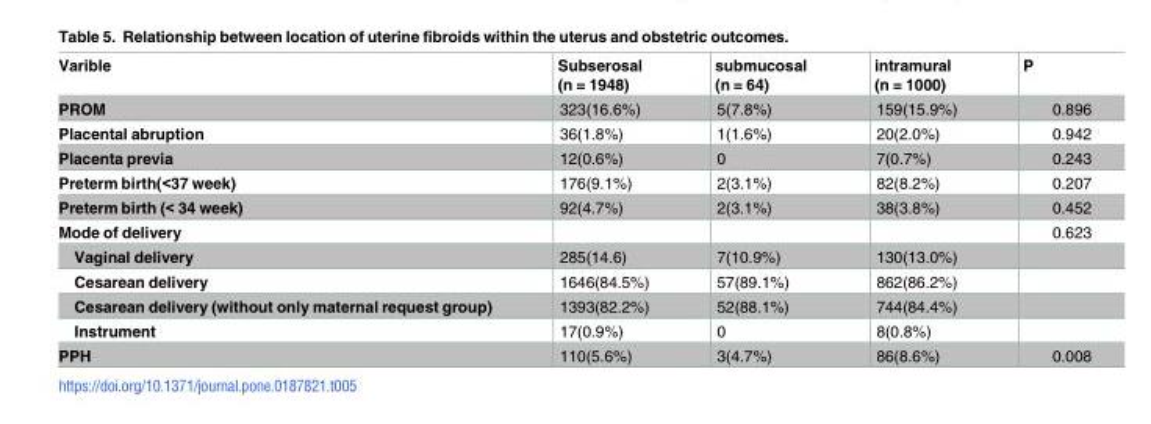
<table><thead><tr><td>Varible</td><td>Subserosal (n = 1948)</td><td>submucosal (n = 64)</td><td>intramural (n = 1000)</td><td>P</td></tr></thead><tbody><tr><td>PROM</td><td>323(16.6%)</td><td>5(7.8%)</td><td>159(15.9%)</td><td>0.896</td></tr><tr><td>Placental abruption</td><td>36(1.8%)</td><td>1(1.6%)</td><td>20(2.0%)</td><td>0.942</td></tr><tr><td>Placenta previa</td><td>12(0.6%)</td><td>0</td><td>7(0.7%)</td><td>0.243</td></tr><tr><td>Preterm birth(&lt;37 week)</td><td>176(9.1%)</td><td>2(3.1%)</td><td>82(8.2%)</td><td>0.207</td></tr><tr><td>Preterm birth (&lt; 34 week)</td><td>92(4.7%)</td><td>2(3.1%)</td><td>38(3.8%)</td><td>0.452</td></tr><tr><td>Mode of delivery</td><td></td><td></td><td></td><td>0.623</td></tr><tr><td>Vaginal delivery</td><td>285(14.6)</td><td>7(10.9%)</td><td>130(13.0%)</td><td></td></tr><tr><td>Cesarean delivery</td><td>1646(84.5%)</td><td>57(89.1%)</td><td>862(86.2%)</td><td></td></tr><tr><td>Cesarean delivery (without only maternal request group)</td><td>1393(82.2%)</td><td>52(88.1%)</td><td>744(84.4%)</td><td></td></tr><tr><td>Instrument</td><td>17(0.9%)</td><td>0</td><td>8(0.8%)</td><td></td></tr><tr><td>PPH</td><td>110(5.6%)</td><td>3(4.7%)</td><td>86(8.6%)</td><td>0.008</td></tr></tbody></table>